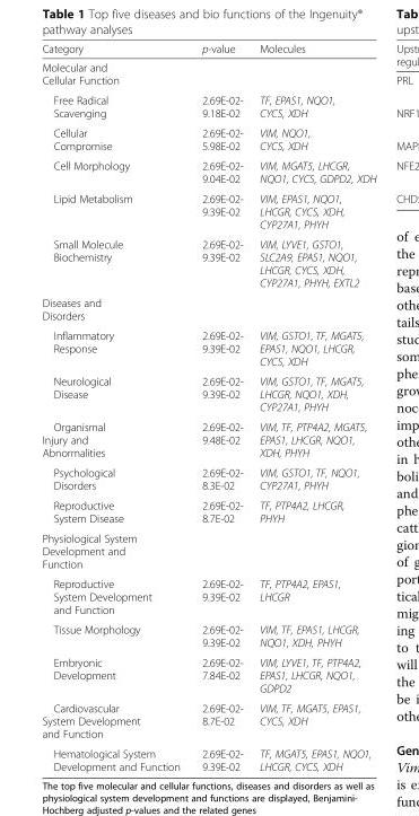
<table><thead><tr><td>Category</td><td>p-value</td><td>Molecules</td></tr></thead><tbody><tr><td colspan="3">Molecular and Cellular Function</td></tr><tr><td>Free Radical Scavenging</td><td>2.69E-02- 9.18E-02</td><td>TF, EPAS1, NQO1, CYCS, XDH</td></tr><tr><td>Cellular Compromise</td><td>2.69E-02- 5.98E-02</td><td>VIM, NQO1, CYCS, XDH</td></tr><tr><td>Cell Morphology</td><td>2.69E-02- 9.04E-02</td><td>VIM, MGAT5, LHCGR, NQO1, CYCS, GDPD2, XDH</td></tr><tr><td>Lipid Metabolism</td><td>2.69E-02- 9.39E-02</td><td>VIM, EPAS1, NQO1, LHCGR, CYCS, XDH, CYP27A1, PHYH</td></tr><tr><td>Small Molecule Biochemistry</td><td>2.69E-02- 9.39E-02</td><td>VIM, LYVE1, GSTO1, SLC2A9, EPAS1, NQO1, LHCGR, CYCS, XDH, CYP27A1, PHYH, EXTL2</td></tr><tr><td colspan="3">Diseases and Disorders</td></tr><tr><td>Inflammatory Response</td><td>2.69E-02- 9.39E-02</td><td>VIM, GSTO1, TF, MGAT5, EPAS1, NQO1, LHCGR, CYCS, XDH</td></tr><tr><td>Neurological Disease</td><td>2.69E-02- 9.39E-02</td><td>VIM, GSTO1, TF, MGAT5, LHCGR, NQO1, XDH, CYP27A1, PHYH</td></tr><tr><td>Organismal Injury and Abnormalities</td><td>2.69E-02- 9.48E-02</td><td>VIM, TF, PTP4A2, MGAT5, EPAS1, LHCGR, NQO1, XDH, PHYH</td></tr><tr><td>Psychological Disorders</td><td>2.69E-02- 8.3E-02</td><td>VIM, GSTO1, TF, NQO1, CYP27A1, PHYH</td></tr><tr><td>Reproductive System Disease</td><td>2.69E-02- 8.7E-02</td><td>TF, PTP4A2, LHCGR, PHYH</td></tr><tr><td colspan="3">Physiological System Development and Function</td></tr><tr><td>Reproductive System Development and Function</td><td>2.69E-02- 9.39E-02</td><td>TF, PTP4A2, EPAS1, LHCGR</td></tr><tr><td>Tissue Morphology</td><td>2.69E-02- 9.39E-02</td><td>VIM, TF, EPAS1, LHCGR, NQO1, XDH, PHYH</td></tr><tr><td>Embryonic Development</td><td>2.69E-02- 7.84E-02</td><td>VIM, LYVE1, TF, PTP4A2, EPAS1, LHCGR, NQO1, GDPD2</td></tr><tr><td>Cardiovascular System Development and Function</td><td>2.69E-02- 8.7E-02</td><td>VIM, TF, MGAT5, EPAS1, CYCS, XDH</td></tr><tr><td>Hematological System Development and Function</td><td>2.69E-02- 9.39E-02</td><td>TF, MGAT5, EPAS1, NQO1, LHCGR, CYCS, XDH</td></tr></tbody></table>